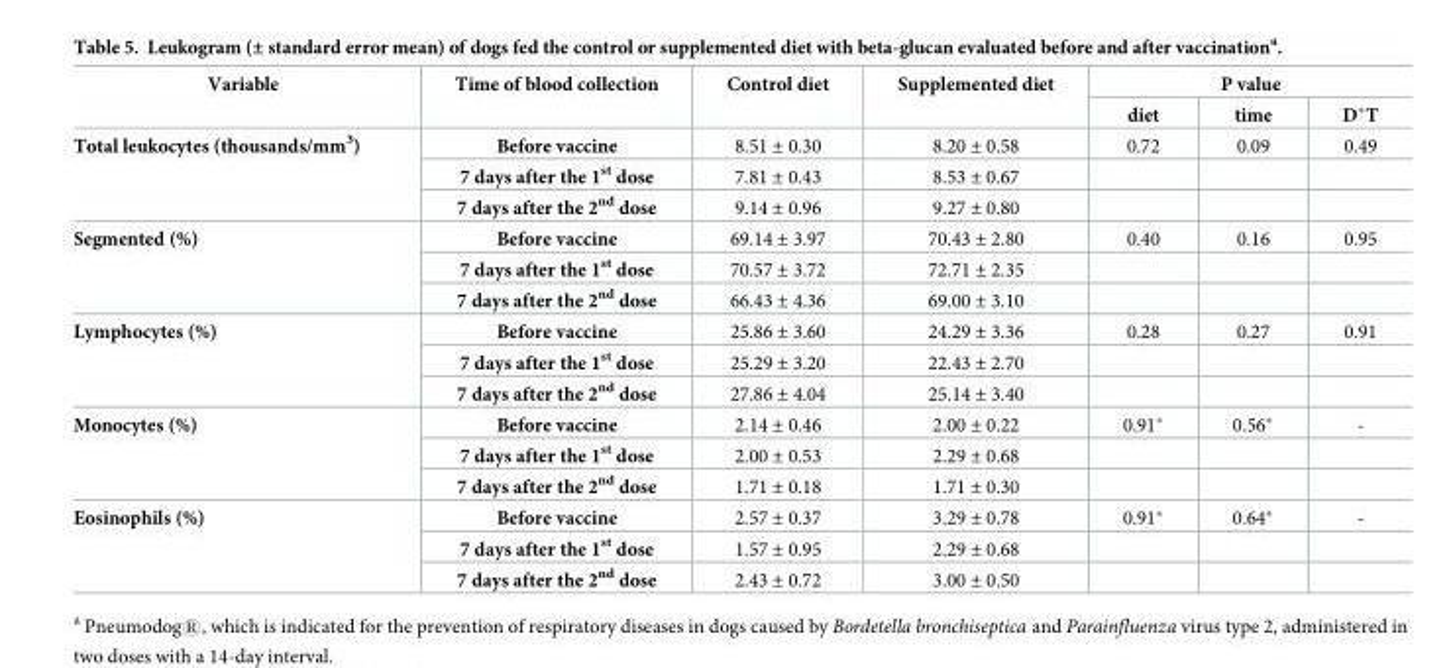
<table><thead><tr><td rowspan="2">Variable</td><td rowspan="2">Time of blood collection</td><td rowspan="2">Control diet</td><td rowspan="2">Supplemented diet</td><td colspan="3">P value</td></tr><tr><td>diet</td><td>time</td><td>D*T</td></tr></thead><tbody><tr><td rowspan="3">Total leukocytes (thousands/mm<sup>3</sup>)</td><td>Before vaccine</td><td>8.51 ± 0.30</td><td>8.20 ± 0.58</td><td>0.72</td><td>0.09</td><td>0.49</td></tr><tr><td>7 days after the 1<sup>st</sup> dose</td><td>7.81 ± 0.43</td><td>8.53 ± 0.67</td><td></td><td></td><td></td></tr><tr><td>7 days after the 2<sup>nd</sup> dose</td><td>9.14 ± 0.96</td><td>9.27 ± 0.80</td><td></td><td></td><td></td></tr><tr><td rowspan="3">Segmented (%)</td><td>Before vaccine</td><td>69.14 ± 3.97</td><td>70.43 ± 2.80</td><td>0.40</td><td>0.16</td><td>0.95</td></tr><tr><td>7 days after the 1<sup>st</sup> dose</td><td>70.57 ± 3.72</td><td>72.71 ± 2.35</td><td></td><td></td><td></td></tr><tr><td>7 days after the 2<sup>nd</sup> dose</td><td>66.43 ± 4.36</td><td>69.00 ± 3.10</td><td></td><td></td><td></td></tr><tr><td rowspan="3">Lymphocytes (%)</td><td>Before vaccine</td><td>25.86 ± 3.60</td><td>24.29 ± 3.36</td><td>0.28</td><td>0.27</td><td>0.91</td></tr><tr><td>7 days after the 1<sup>st</sup> dose</td><td>25.29 ± 3.20</td><td>22.43 ± 2.70</td><td></td><td></td><td></td></tr><tr><td>7 days after the 2<sup>nd</sup> dose</td><td>27.86 ± 4.04</td><td>25.14 ± 3.40</td><td></td><td></td><td></td></tr><tr><td rowspan="3">Monocytes (%)</td><td>Before vaccine</td><td>2.14 ± 0.46</td><td>2.00 ± 0.22</td><td>0.91*</td><td>0.56*</td><td>-</td></tr><tr><td>7 days after the 1<sup>st</sup> dose</td><td>2.00 ± 0.53</td><td>2.29 ± 0.68</td><td></td><td></td><td></td></tr><tr><td>7 days after the 2<sup>nd</sup> dose</td><td>1.71 ± 0.18</td><td>1.71 ± 0.30</td><td></td><td></td><td></td></tr><tr><td rowspan="3">Eosinophils (%)</td><td>Before vaccine</td><td>2.57 ± 0.37</td><td>3.29 ± 0.78</td><td>0.91*</td><td>0.64*</td><td>-</td></tr><tr><td>7 days after the 1<sup>st</sup> dose</td><td>1.57 ± 0.95</td><td>2.29 ± 0.68</td><td></td><td></td><td></td></tr><tr><td>7 days after the 2<sup>nd</sup> dose</td><td>2.43 ± 0.72</td><td>3.00 ± 0.50</td><td></td><td></td><td></td></tr></tbody></table>